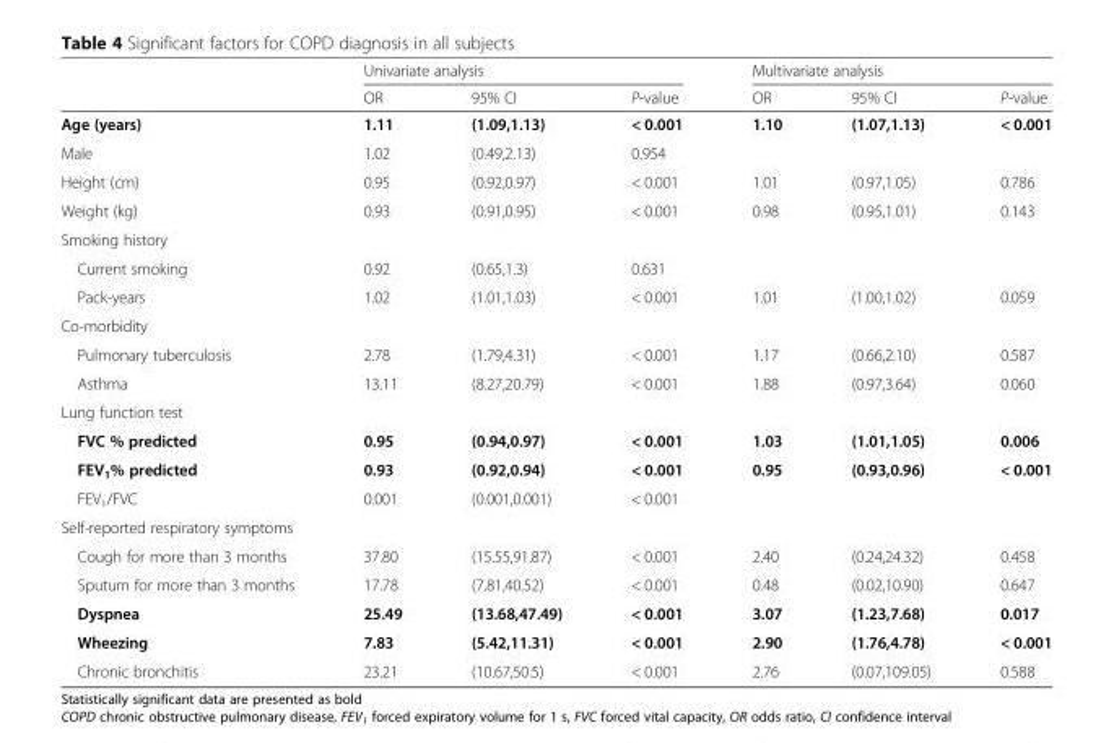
<table><thead><tr><td rowspan="2"></td><td colspan="3">Univariate analysis</td><td colspan="3">Multivariate analysis</td></tr><tr><td>OR</td><td>95% CI</td><td>P-value</td><td>OR</td><td>95% CI</td><td>P-value</td></tr></thead><tbody><tr><td>Age (years)</td><td>1.11</td><td>(1.09,1.13)</td><td>&lt; 0.001</td><td>1.10</td><td>(1.07,1.13)</td><td>&lt; 0.001</td></tr><tr><td>Male</td><td>1.02</td><td>(0.49,2.13)</td><td>0.954</td><td></td><td></td><td></td></tr><tr><td>Height (cm)</td><td>0.95</td><td>(0.92,0.97)</td><td>&lt; 0.001</td><td>1.01</td><td>(0.97,1.05)</td><td>0.786</td></tr><tr><td>Weight (kg)</td><td>0.93</td><td>(0.91,0.95)</td><td>&lt; 0.001</td><td>0.98</td><td>(0.95,1.01)</td><td>0.143</td></tr><tr><td colspan="7">Smoking history</td></tr><tr><td>Current smoking</td><td>0.92</td><td>(0.65,1.3)</td><td>0.631</td><td></td><td></td><td></td></tr><tr><td>Pack-years</td><td>1.02</td><td>(1.01,1.03)</td><td>&lt; 0.001</td><td>1.01</td><td>(1.00,1.02)</td><td>0.059</td></tr><tr><td colspan="7">Co-morbidity</td></tr><tr><td>Pulmonary tuberculosis</td><td>2.78</td><td>(1.79,4.31)</td><td>&lt; 0.001</td><td>1.17</td><td>(0.66,2.10)</td><td>0.587</td></tr><tr><td>Asthma</td><td>13.11</td><td>(8.27,20.79)</td><td>&lt; 0.001</td><td>1.88</td><td>(0.97,3.64)</td><td>0.060</td></tr><tr><td colspan="7">Lung function test</td></tr><tr><td>FVC % predicted</td><td>0.95</td><td>(0.94,0.97)</td><td>&lt; 0.001</td><td>1.03</td><td>(1.01,1.05)</td><td>0.006</td></tr><tr><td>FEV<sub>1</sub>% predicted</td><td>0.93</td><td>(0.92,0.94)</td><td>&lt; 0.001</td><td>0.95</td><td>(0.93,0.96)</td><td>&lt; 0.001</td></tr><tr><td>FEV<sub>1</sub>/FVC</td><td>0.001</td><td>(0.001,0.001)</td><td>&lt; 0.001</td><td></td><td></td><td></td></tr><tr><td colspan="7">Self-reported respiratory symptoms</td></tr><tr><td>Cough for more than 3 months</td><td>37.80</td><td>(15.55,91.87)</td><td>&lt; 0.001</td><td>2.40</td><td>(0.24,24.32)</td><td>0.458</td></tr><tr><td>Sputum for more than 3 months</td><td>17.78</td><td>(7.81,40.52)</td><td>&lt; 0.001</td><td>0.48</td><td>(0.02,10.90)</td><td>0.647</td></tr><tr><td>Dyspnea</td><td>25.49</td><td>(13.68,47.49)</td><td>&lt; 0.001</td><td>3.07</td><td>(1.23,7.68)</td><td>0.017</td></tr><tr><td>Wheezing</td><td>7.83</td><td>(5.42,11.31)</td><td>&lt; 0.001</td><td>2.90</td><td>(1.76,4.78)</td><td>&lt; 0.001</td></tr><tr><td>Chronic bronchitis</td><td>23.21</td><td>(10.67,50.5)</td><td>&lt; 0.001</td><td>2.76</td><td>(0.07,109.05)</td><td>0.588</td></tr></tbody></table>